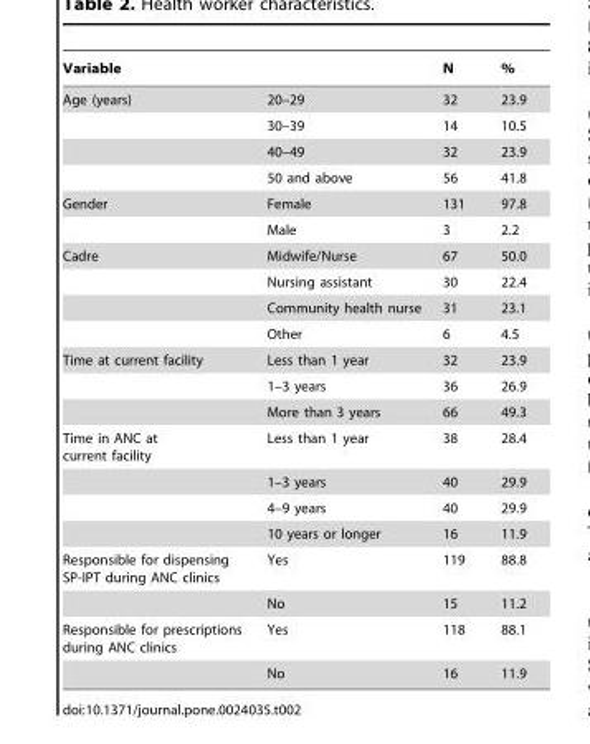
<table><thead><tr><td>Variable</td><td></td><td>N</td><td>%</td></tr></thead><tbody><tr><td rowspan="4">Age (years)</td><td>20–29</td><td>32</td><td>23.9</td></tr><tr><td>30–39</td><td>14</td><td>10.5</td></tr><tr><td>40–49</td><td>32</td><td>23.9</td></tr><tr><td>50 and above</td><td>56</td><td>41.8</td></tr><tr><td rowspan="2">Gender</td><td>Female</td><td>131</td><td>97.8</td></tr><tr><td>Male</td><td>3</td><td>2.2</td></tr><tr><td rowspan="4">Cadre</td><td>Midwife/Nurse</td><td>67</td><td>50.0</td></tr><tr><td>Nursing assistant</td><td>30</td><td>22.4</td></tr><tr><td>Community health nurse</td><td>31</td><td>23.1</td></tr><tr><td>Other</td><td>6</td><td>4.5</td></tr><tr><td rowspan="3">Time at current facility</td><td>Less than 1 year</td><td>32</td><td>23.9</td></tr><tr><td>1–3 years</td><td>36</td><td>26.9</td></tr><tr><td>More than 3 years</td><td>66</td><td>49.3</td></tr><tr><td rowspan="4">Time in ANC at current facility</td><td>Less than 1 year</td><td>38</td><td>28.4</td></tr><tr><td>1–3 years</td><td>40</td><td>29.9</td></tr><tr><td>4–9 years</td><td>40</td><td>29.9</td></tr><tr><td>10 years or longer</td><td>16</td><td>11.9</td></tr><tr><td rowspan="2">Responsible for dispensing SP-IPT during ANC clinics</td><td>Yes</td><td>119</td><td>88.8</td></tr><tr><td>No</td><td>15</td><td>11.2</td></tr><tr><td rowspan="2">Responsible for prescriptions during ANC clinics</td><td>Yes</td><td>118</td><td>88.1</td></tr><tr><td>No</td><td>16</td><td>11.9</td></tr></tbody></table>